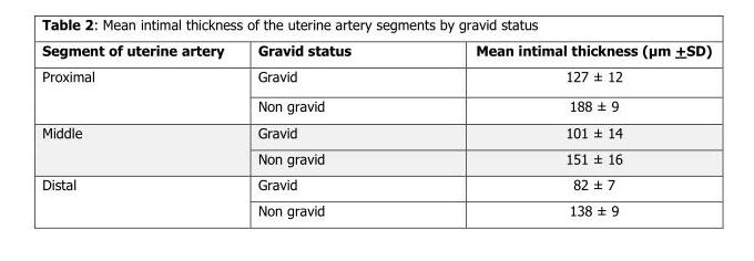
<table><thead><tr><td>Segment of uterine artery</td><td>Gravid status</td><td>Mean intimal thickness (µm +SD)</td></tr></thead><tbody><tr><td rowspan="2">Proximal</td><td>Gravid</td><td>127 ± 12</td></tr><tr><td>Non gravid</td><td>188 ± 9</td></tr><tr><td rowspan="2">Middle</td><td>Gravid</td><td>101 ± 14</td></tr><tr><td>Non gravid</td><td>151 ± 16</td></tr><tr><td rowspan="2">Distal</td><td>Gravid</td><td>82 ± 7</td></tr><tr><td>Non gravid</td><td>138 ± 9</td></tr></tbody></table>